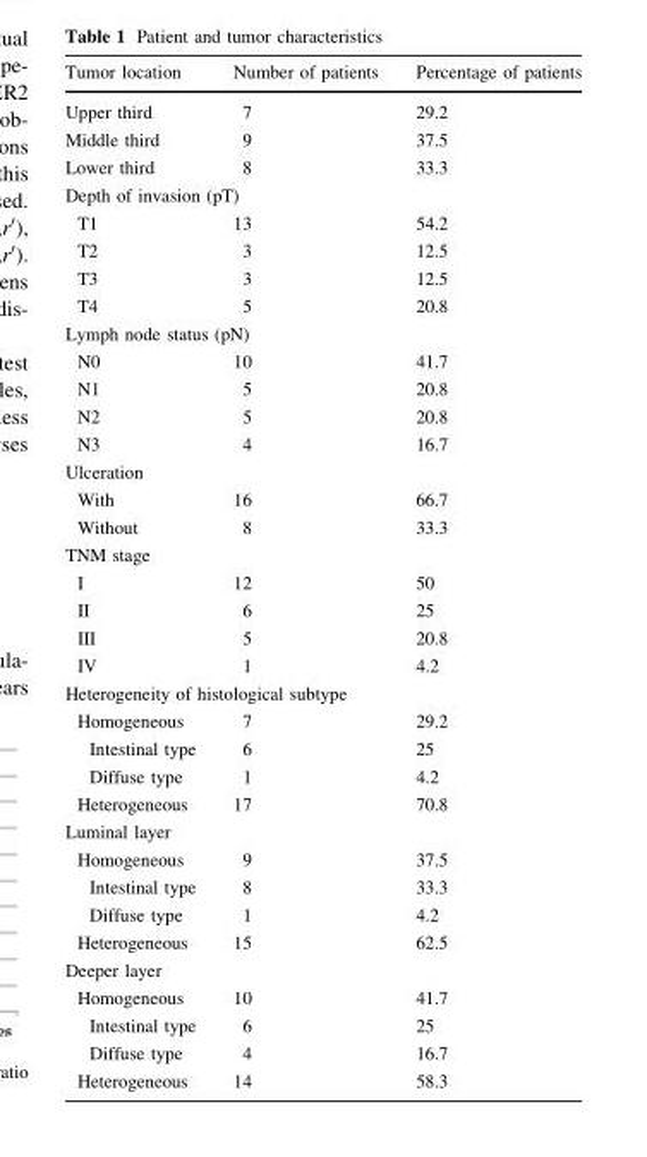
<table><thead><tr><td>Tumor location</td><td>Number of patients</td><td>Percentage of patients</td></tr></thead><tbody><tr><td>Upper third</td><td>7</td><td>29.2</td></tr><tr><td>Middle third</td><td>9</td><td>37.5</td></tr><tr><td>Lower third</td><td>8</td><td>33.3</td></tr><tr><td colspan="3">Depth of invasion (pT)</td></tr><tr><td>T1</td><td>13</td><td>54.2</td></tr><tr><td>T2</td><td>3</td><td>12.5</td></tr><tr><td>T3</td><td>3</td><td>12.5</td></tr><tr><td>T4</td><td>5</td><td>20.8</td></tr><tr><td colspan="3">Lymph node status (pN)</td></tr><tr><td>N0</td><td>10</td><td>41.7</td></tr><tr><td>N1</td><td>5</td><td>20.8</td></tr><tr><td>N2</td><td>5</td><td>20.8</td></tr><tr><td>N3</td><td>4</td><td>16.7</td></tr><tr><td colspan="3">Ulceration</td></tr><tr><td>With</td><td>16</td><td>66.7</td></tr><tr><td>Without</td><td>8</td><td>33.3</td></tr><tr><td colspan="3">TNM stage</td></tr><tr><td>I</td><td>12</td><td>50</td></tr><tr><td>II</td><td>6</td><td>25</td></tr><tr><td>III</td><td>5</td><td>20.8</td></tr><tr><td>IV</td><td>1</td><td>4.2</td></tr><tr><td colspan="3">Heterogeneity of histological subtype</td></tr><tr><td>Homogeneous</td><td>7</td><td>29.2</td></tr><tr><td>Intestinal type</td><td>6</td><td>25</td></tr><tr><td>Diffuse type</td><td>1</td><td>4.2</td></tr><tr><td>Heterogeneous</td><td>17</td><td>70.8</td></tr><tr><td colspan="3">Luminal layer</td></tr><tr><td>Homogeneous</td><td>9</td><td>37.5</td></tr><tr><td>Intestinal type</td><td>8</td><td>33.3</td></tr><tr><td>Diffuse type</td><td>1</td><td>4.2</td></tr><tr><td>Heterogeneous</td><td>15</td><td>62.5</td></tr><tr><td colspan="3">Deeper layer</td></tr><tr><td>Homogeneous</td><td>10</td><td>41.7</td></tr><tr><td>Intestinal type</td><td>6</td><td>25</td></tr><tr><td>Diffuse type</td><td>4</td><td>16.7</td></tr><tr><td>Heterogeneous</td><td>14</td><td>58.3</td></tr></tbody></table>